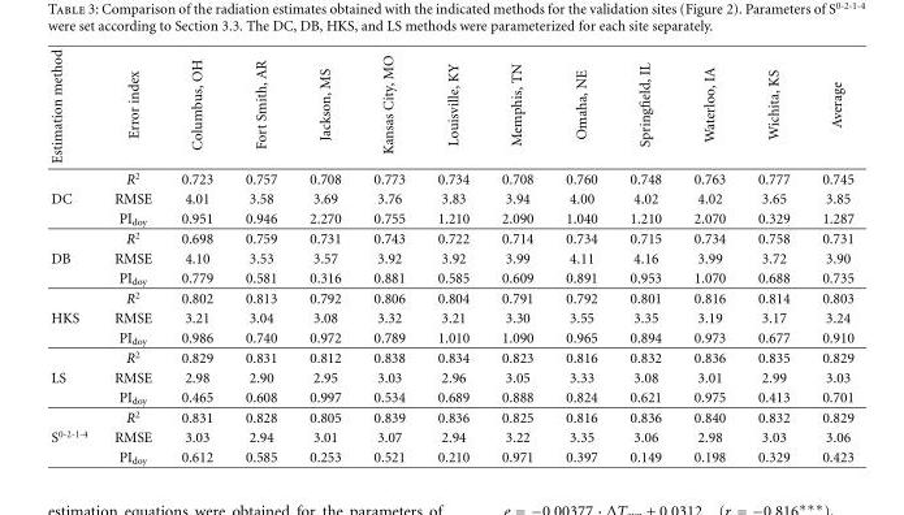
<table><thead><tr><td>Estimation method</td><td>Error index</td><td>Columbus, OH</td><td>Fort Smith, AR</td><td>Jackson, MS</td><td>Kansas City, MO</td><td>Louisville, KY</td><td>Memphis, TN</td><td>Omaha, NE</td><td>Springfield, IL</td><td>Waterloo, IA</td><td>Wichita, KS</td><td>Average</td></tr></thead><tbody><tr><td></td><td>R<sup>2</sup></td><td>0.723</td><td>0.757</td><td>0.708</td><td>0.773</td><td>0.734</td><td>0.708</td><td>0.760</td><td>0.748</td><td>0.763</td><td>0.777</td><td>0.745</td></tr><tr><td rowspan="3">DC</td><td>RMSE</td><td>4.01</td><td>3.58</td><td>3.69</td><td>3.76</td><td>3.83</td><td>3.94</td><td>4.00</td><td>4.02</td><td>4.02</td><td>3.65</td><td>3.85</td></tr><tr><td>PI<sub>doy</sub></td><td>0.951</td><td>0.946</td><td>2.270</td><td>0.755</td><td>1.210</td><td>2.090</td><td>1.040</td><td>1.210</td><td>2.070</td><td>0.329</td><td>1.287</td></tr><tr><td>R<sup>2</sup></td><td>0.698</td><td>0.759</td><td>0.731</td><td>0.743</td><td>0.722</td><td>0.714</td><td>0.734</td><td>0.715</td><td>0.734</td><td>0.758</td><td>0.731</td></tr><tr><td rowspan="3">DB</td><td>RMSE</td><td>4.10</td><td>3.53</td><td>3.57</td><td>3.92</td><td>3.92</td><td>3.99</td><td>4.11</td><td>4.16</td><td>3.99</td><td>3.72</td><td>3.90</td></tr><tr><td>PI<sub>doy</sub></td><td>0.779</td><td>0.581</td><td>0.316</td><td>0.881</td><td>0.585</td><td>0.609</td><td>0.891</td><td>0.953</td><td>1.070</td><td>0.688</td><td>0.735</td></tr><tr><td>R<sup>2</sup></td><td>0.802</td><td>0.813</td><td>0.792</td><td>0.806</td><td>0.804</td><td>0.791</td><td>0.792</td><td>0.801</td><td>0.816</td><td>0.814</td><td>0.803</td></tr><tr><td rowspan="3">HKS</td><td>RMSE</td><td>3.21</td><td>3.04</td><td>3.08</td><td>3.32</td><td>3.21</td><td>3.30</td><td>3.55</td><td>3.35</td><td>3.19</td><td>3.17</td><td>3.24</td></tr><tr><td>PI<sub>doy</sub></td><td>0.986</td><td>0.740</td><td>0.972</td><td>0.789</td><td>1.010</td><td>1.090</td><td>0.965</td><td>0.894</td><td>0.973</td><td>0.677</td><td>0.910</td></tr><tr><td>R<sup>2</sup></td><td>0.829</td><td>0.831</td><td>0.812</td><td>0.838</td><td>0.834</td><td>0.823</td><td>0.816</td><td>0.832</td><td>0.836</td><td>0.835</td><td>0.829</td></tr><tr><td rowspan="3">LS</td><td>RMSE</td><td>2.98</td><td>2.90</td><td>2.95</td><td>3.03</td><td>2.96</td><td>3.05</td><td>3.33</td><td>3.08</td><td>3.01</td><td>2.99</td><td>3.03</td></tr><tr><td>PI<sub>doy</sub></td><td>0.465</td><td>0.608</td><td>0.997</td><td>0.534</td><td>0.689</td><td>0.888</td><td>0.824</td><td>0.621</td><td>0.975</td><td>0.413</td><td>0.701</td></tr><tr><td>R<sup>2</sup></td><td>0.831</td><td>0.828</td><td>0.805</td><td>0.839</td><td>0.836</td><td>0.825</td><td>0.816</td><td>0.836</td><td>0.840</td><td>0.832</td><td>0.829</td></tr><tr><td rowspan="2">S<sup>0-2-1-4</sup></td><td>RMSE</td><td>3.03</td><td>2.94</td><td>3.01</td><td>3.07</td><td>2.94</td><td>3.22</td><td>3.35</td><td>3.06</td><td>2.98</td><td>3.03</td><td>3.06</td></tr><tr><td>PI<sub>doy</sub></td><td>0.612</td><td>0.585</td><td>0.253</td><td>0.521</td><td>0.210</td><td>0.971</td><td>0.397</td><td>0.149</td><td>0.198</td><td>0.329</td><td>0.423</td></tr></tbody></table>